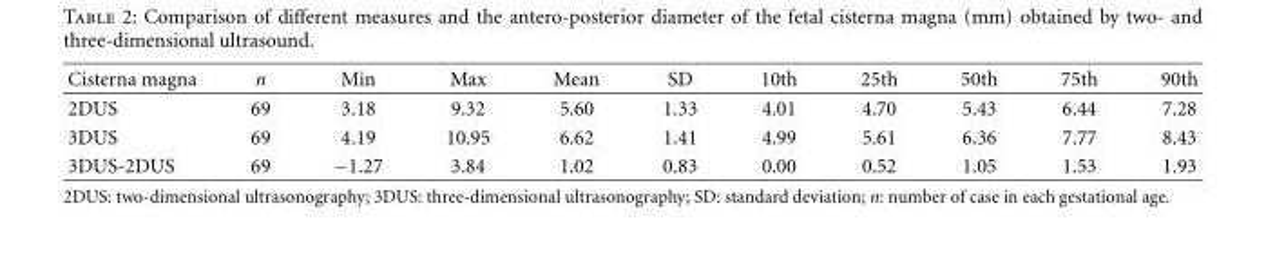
<table><thead><tr><td>Cisterna magna</td><td>n</td><td>Min</td><td>Max</td><td>Mean</td><td>SD</td><td>10th</td><td>25th</td><td>50th</td><td>75th</td><td>90th</td></tr></thead><tbody><tr><td>2DUS</td><td>69</td><td>3.18</td><td>9.32</td><td>5.60</td><td>1.33</td><td>4.01</td><td>4.70</td><td>5.43</td><td>6.44</td><td>7.28</td></tr><tr><td>3DUS</td><td>69</td><td>4.19</td><td>10.95</td><td>6.62</td><td>1.41</td><td>4.99</td><td>5.61</td><td>6.36</td><td>7.77</td><td>8.43</td></tr><tr><td>3DUS-2DUS</td><td>69</td><td>−1.27</td><td>3.84</td><td>1.02</td><td>0.83</td><td>0.00</td><td>0.52</td><td>1.05</td><td>1.53</td><td>1.93</td></tr></tbody></table>